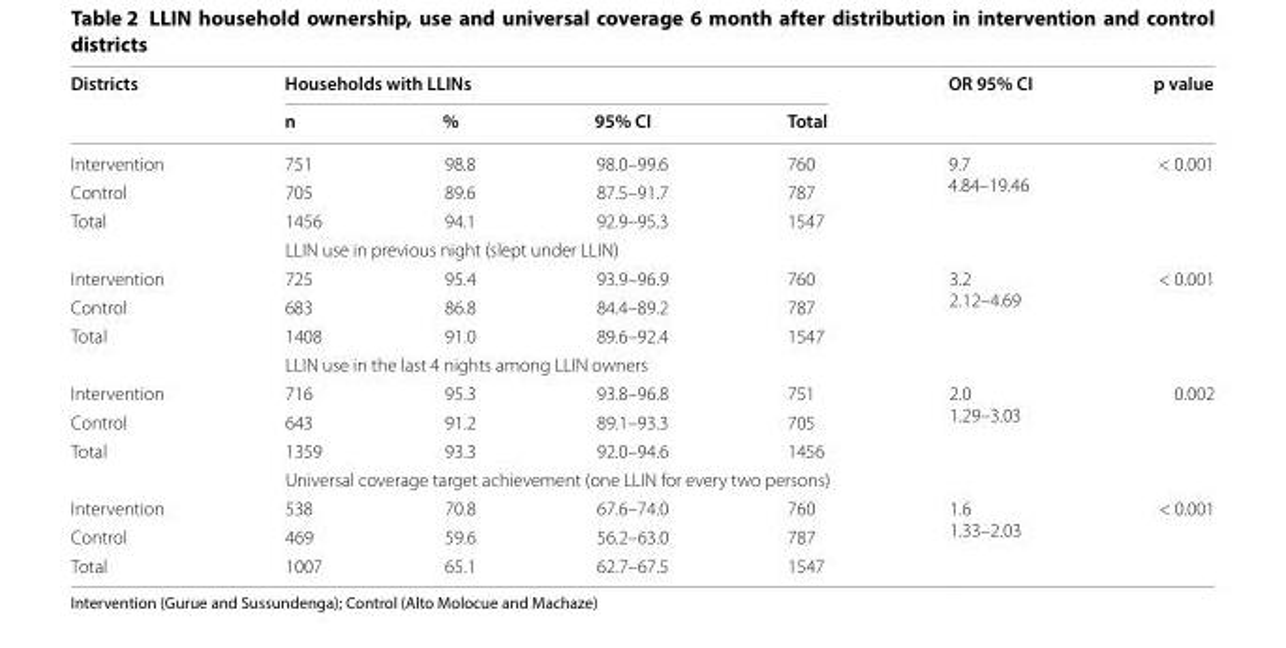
<table><thead><tr><td rowspan="2">Districts</td><td colspan="4">Households with LLINs</td><td rowspan="2">OR 95% CI</td><td rowspan="2">p value</td></tr><tr><td>n</td><td>%</td><td>95% CI</td><td>Total</td></tr></thead><tbody><tr><td>Intervention</td><td>751</td><td>98.8</td><td>98.0–99.6</td><td>760</td><td rowspan="3">9.7 4.84–19.46</td><td rowspan="3">&lt; 0.001</td></tr><tr><td>Control</td><td>705</td><td>89.6</td><td>87.5–91.7</td><td>787</td></tr><tr><td rowspan="2">Total</td><td>1456</td><td>94.1</td><td>92.9–95.3</td><td>1547</td></tr><tr><td colspan="4">LLIN use in previous night (slept under LLIN)</td><td></td><td></td></tr><tr><td>Intervention</td><td>725</td><td>95.4</td><td>93.9–96.9</td><td>760</td><td rowspan="3">3.2 2.12–4.69</td><td rowspan="3">&lt; 0.001</td></tr><tr><td>Control</td><td>683</td><td>86.8</td><td>84.4–89.2</td><td>787</td></tr><tr><td rowspan="2">Total</td><td>1408</td><td>91.0</td><td>89.6–92.4</td><td>1547</td></tr><tr><td colspan="4">LLIN use in the last 4 nights among LLIN owners</td><td></td><td></td></tr><tr><td>Intervention</td><td>716</td><td>95.3</td><td>93.8–96.8</td><td>751</td><td rowspan="3">2.0 1.29–3.03</td><td rowspan="3">0.002</td></tr><tr><td>Control</td><td>643</td><td>91.2</td><td>89.1–93.3</td><td>705</td></tr><tr><td rowspan="2">Total</td><td>1359</td><td>93.3</td><td>92.0–94.6</td><td>1456</td></tr><tr><td colspan="4">Universal coverage target achievement (one LLIN for every two persons)</td><td></td><td></td></tr><tr><td>Intervention</td><td>538</td><td>70.8</td><td>67.6–74.0</td><td>760</td><td rowspan="3">1.6 1.33–2.03</td><td rowspan="3">&lt; 0.001</td></tr><tr><td>Control</td><td>469</td><td>59.6</td><td>56.2–63.0</td><td>787</td></tr><tr><td>Total</td><td>1007</td><td>65.1</td><td>62.7–67.5</td><td>1547</td></tr></tbody></table>